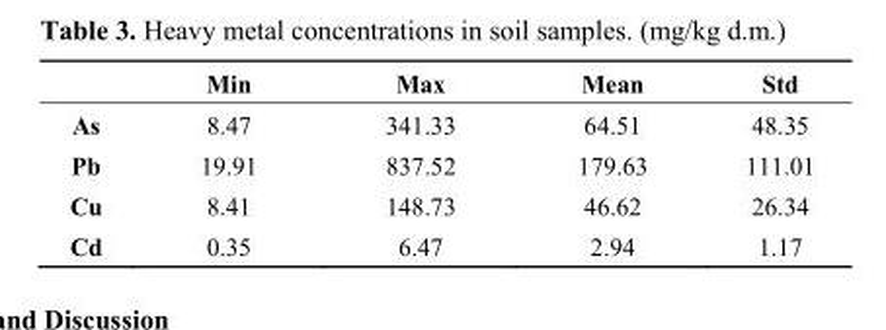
<table><thead><tr><td></td><td>Min</td><td>Max</td><td>Mean</td><td>Std</td></tr></thead><tbody><tr><td>As</td><td>8.47</td><td>341.33</td><td>64.51</td><td>48.35</td></tr><tr><td>Pb</td><td>19.91</td><td>837.52</td><td>179.63</td><td>111.01</td></tr><tr><td>Cu</td><td>8.41</td><td>148.73</td><td>46.62</td><td>26.34</td></tr><tr><td>Cd</td><td>0.35</td><td>6.47</td><td>2.94</td><td>1.17</td></tr></tbody></table>